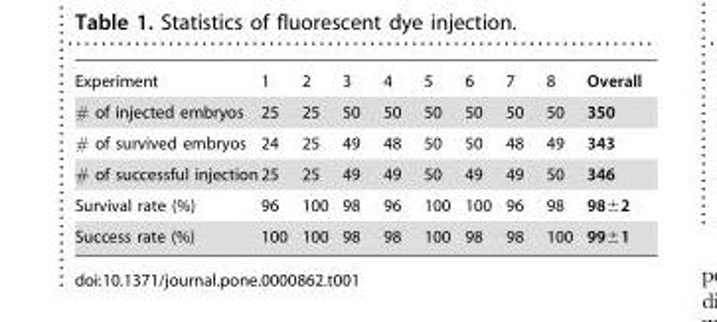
<table><tbody><tr><td>Experiment</td><td>1</td><td>2</td><td>3</td><td>4</td><td>5</td><td>6</td><td>7</td><td>8</td><td>Overall</td></tr><tr><td># of injected embryos</td><td>25</td><td>25</td><td>50</td><td>50</td><td>50</td><td>50</td><td>50</td><td>50</td><td>350</td></tr><tr><td># of survived embryos</td><td>24</td><td>25</td><td>49</td><td>48</td><td>50</td><td>50</td><td>48</td><td>49</td><td>343</td></tr><tr><td># of successful injection</td><td>25</td><td>25</td><td>49</td><td>49</td><td>50</td><td>49</td><td>49</td><td>50</td><td>346</td></tr><tr><td>Survival rate (%)</td><td>96</td><td>100</td><td>98</td><td>96</td><td>100</td><td>100</td><td>96</td><td>98</td><td>98±2</td></tr><tr><td>Success rate (%)</td><td>100</td><td>100</td><td>98</td><td>98</td><td>100</td><td>98</td><td>98</td><td>100</td><td>99±1</td></tr></tbody></table>